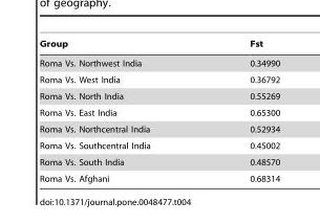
<table><thead><tr><td>Group</td><td>Fst</td></tr></thead><tbody><tr><td>Roma Vs. Northwest India</td><td>0.34990</td></tr><tr><td>Roma Vs. West India</td><td>0.36792</td></tr><tr><td>Roma Vs. North India</td><td>0.55269</td></tr><tr><td>Roma Vs. East India</td><td>0.65300</td></tr><tr><td>Roma Vs. Northcentral India</td><td>0.52934</td></tr><tr><td>Roma Vs. Southcentral India</td><td>0.45002</td></tr><tr><td>Roma Vs. South India</td><td>0.48570</td></tr><tr><td>Roma Vs. Afghani</td><td>0.68314</td></tr></tbody></table>